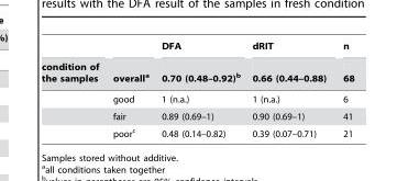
<table><thead><tr><td rowspan="2">condition of the samples</td><td rowspan="2">overall<sup>a</sup></td><td rowspan="2">DFA 0.70 (0.48–0.92)<sup>b</sup></td><td rowspan="2">dRIT 0.66 (0.44–0.88)</td><td rowspan="2">n 68</td></tr><tr></tr></thead><tbody><tr><td></td><td>good</td><td>1 (n.a.)</td><td>1 (n.a.)</td><td>6</td></tr><tr><td></td><td>fair</td><td>0.89 (0.69–1)</td><td>0.90 (0.69–1)</td><td>41</td></tr><tr><td></td><td>poor<sup>c</sup></td><td>0.48 (0.14–0.82)</td><td>0.39 (0.07–0.71)</td><td>21</td></tr></tbody></table>